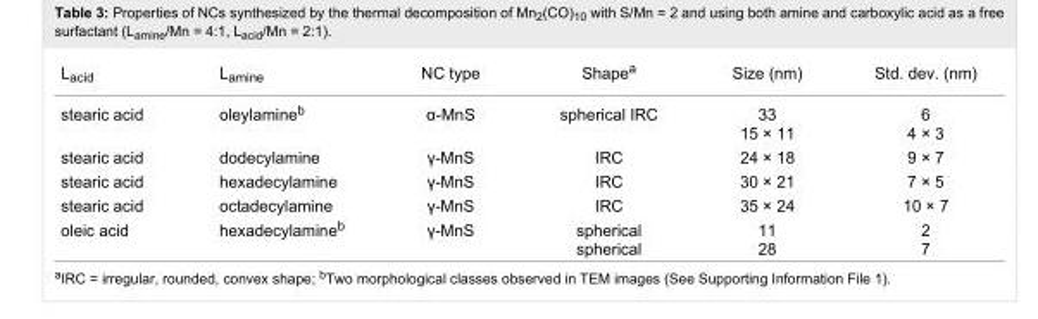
<table><tbody><tr><td>L<sub>acid</sub></td><td>L<sub>amine</sub></td><td>NC type</td><td>Shape<sup>a</sup></td><td>Size (nm)</td><td>Std. dev. (nm)</td></tr><tr><td>stearic acid</td><td>oleylamine<sup>b</sup></td><td>α-MnS</td><td>spherical IRC</td><td>33 15 × 11</td><td>6 4 × 3</td></tr><tr><td>stearic acid</td><td>dodecylamine</td><td>γ-MnS</td><td>IRC</td><td>24 × 18</td><td>9 × 7</td></tr><tr><td>stearic acid</td><td>hexadecylamine</td><td>γ-MnS</td><td>IRC</td><td>30 × 21</td><td>7 × 5</td></tr><tr><td>stearic acid</td><td>octadecylamine</td><td>γ-MnS</td><td>IRC</td><td>35 × 24</td><td>10 × 7</td></tr><tr><td>oleic acid</td><td>hexadecylamine<sup>b</sup></td><td>γ-MnS</td><td>spherical spherical</td><td>11 28</td><td>2 7</td></tr></tbody></table>